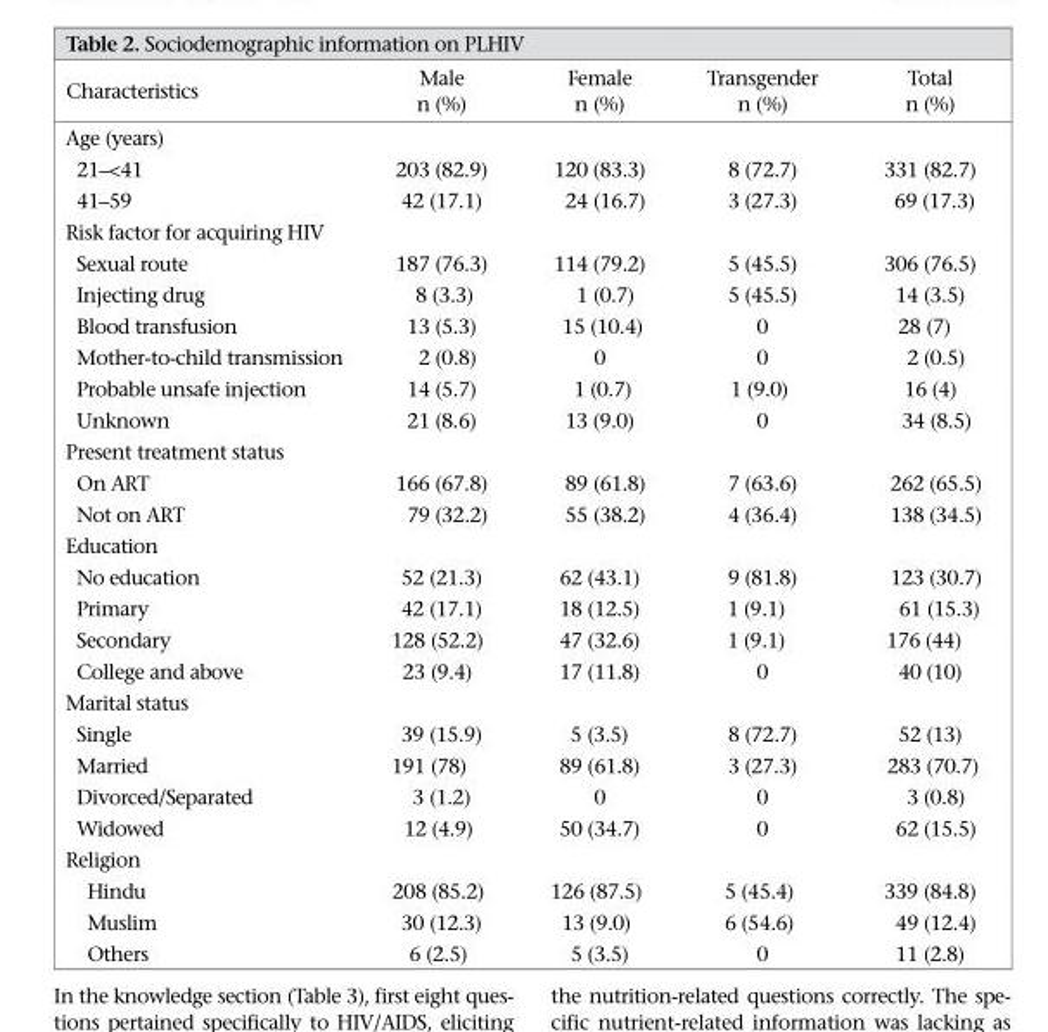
<table><thead><tr><td>Characteristics</td><td>Male n (%)</td><td>Female n (%)</td><td>Transgender n (%)</td><td>Total n (%)</td></tr></thead><tbody><tr><td colspan="5">Age (years)</td></tr><tr><td>21–&lt;41</td><td>203 (82.9)</td><td>120 (83.3)</td><td>8 (72.7)</td><td>331 (82.7)</td></tr><tr><td>41–59</td><td>42 (17.1)</td><td>24 (16.7)</td><td>3 (27.3)</td><td>69 (17.3)</td></tr><tr><td colspan="5">Risk factor for acquiring HIV</td></tr><tr><td>Sexual route</td><td>187 (76.3)</td><td>114 (79.2)</td><td>5 (45.5)</td><td>306 (76.5)</td></tr><tr><td>Injecting drug</td><td>8 (3.3)</td><td>1 (0.7)</td><td>5 (45.5)</td><td>14 (3.5)</td></tr><tr><td>Blood transfusion</td><td>13 (5.3)</td><td>15 (10.4)</td><td>0</td><td>28 (7)</td></tr><tr><td>Mother-to-child transmission</td><td>2 (0.8)</td><td>0</td><td>0</td><td>2 (0.5)</td></tr><tr><td>Probable unsafe injection</td><td>14 (5.7)</td><td>1 (0.7)</td><td>1 (9.0)</td><td>16 (4)</td></tr><tr><td>Unknown</td><td>21 (8.6)</td><td>13 (9.0)</td><td>0</td><td>34 (8.5)</td></tr><tr><td colspan="5">Present treatment status</td></tr><tr><td>On ART</td><td>166 (67.8)</td><td>89 (61.8)</td><td>7 (63.6)</td><td>262 (65.5)</td></tr><tr><td>Not on ART</td><td>79 (32.2)</td><td>55 (38.2)</td><td>4 (36.4)</td><td>138 (34.5)</td></tr><tr><td colspan="5">Education</td></tr><tr><td>No education</td><td>52 (21.3)</td><td>62 (43.1)</td><td>9 (81.8)</td><td>123 (30.7)</td></tr><tr><td>Primary</td><td>42 (17.1)</td><td>18 (12.5)</td><td>1 (9.1)</td><td>61 (15.3)</td></tr><tr><td>Secondary</td><td>128 (52.2)</td><td>47 (32.6)</td><td>1 (9.1)</td><td>176 (44)</td></tr><tr><td>College and above</td><td>23 (9.4)</td><td>17 (11.8)</td><td>0</td><td>40 (10)</td></tr><tr><td colspan="5">Marital status</td></tr><tr><td>Single</td><td>39 (15.9)</td><td>5 (3.5)</td><td>8 (72.7)</td><td>52 (13)</td></tr><tr><td>Married</td><td>191 (78)</td><td>89 (61.8)</td><td>3 (27.3)</td><td>283 (70.7)</td></tr><tr><td>Divorced/Separated</td><td>3 (1.2)</td><td>0</td><td>0</td><td>3 (0.8)</td></tr><tr><td>Widowed</td><td>12 (4.9)</td><td>50 (34.7)</td><td>0</td><td>62 (15.5)</td></tr><tr><td colspan="5">Religion</td></tr><tr><td>Hindu</td><td>208 (85.2)</td><td>126 (87.5)</td><td>5 (45.4)</td><td>339 (84.8)</td></tr><tr><td>Muslim</td><td>30 (12.3)</td><td>13 (9.0)</td><td>6 (54.6)</td><td>49 (12.4)</td></tr><tr><td>Others</td><td>6 (2.5)</td><td>5 (3.5)</td><td>0</td><td>11 (2.8)</td></tr></tbody></table>